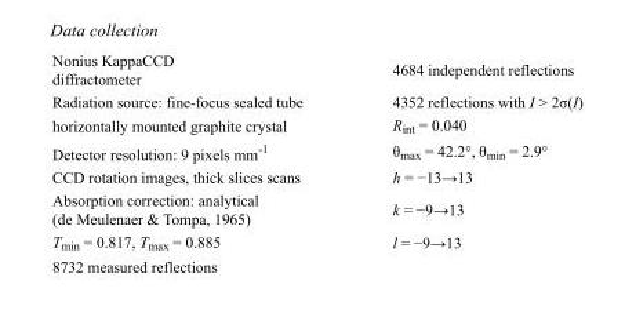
<table><tbody><tr><td>Nonius KappaCCD diffractometer</td><td>4684 independent reflections</td></tr><tr><td>Radiation source: fine-focus sealed tube</td><td>4352 reflections with I &gt; 2σ(I)</td></tr><tr><td>horizontally mounted graphite crystal</td><td>R<sub>int</sub> = 0.040</td></tr><tr><td>Detector resolution: 9 pixels mm<sup>-1</sup></td><td>θ<sub>max</sub> = 42.2°, θ<sub>min</sub> = 2.9°</td></tr><tr><td>CCD rotation images, thick slices scans</td><td>h = −13→13</td></tr><tr><td>Absorption correction: analytical (de Meulenaer &amp; Tompa, 1965)</td><td>k = −9→13</td></tr><tr><td>T<sub>min</sub> = 0.817, T<sub>max</sub> = 0.885</td><td>l = −9→13</td></tr><tr><td>8732 measured reflections</td><td></td></tr></tbody></table>